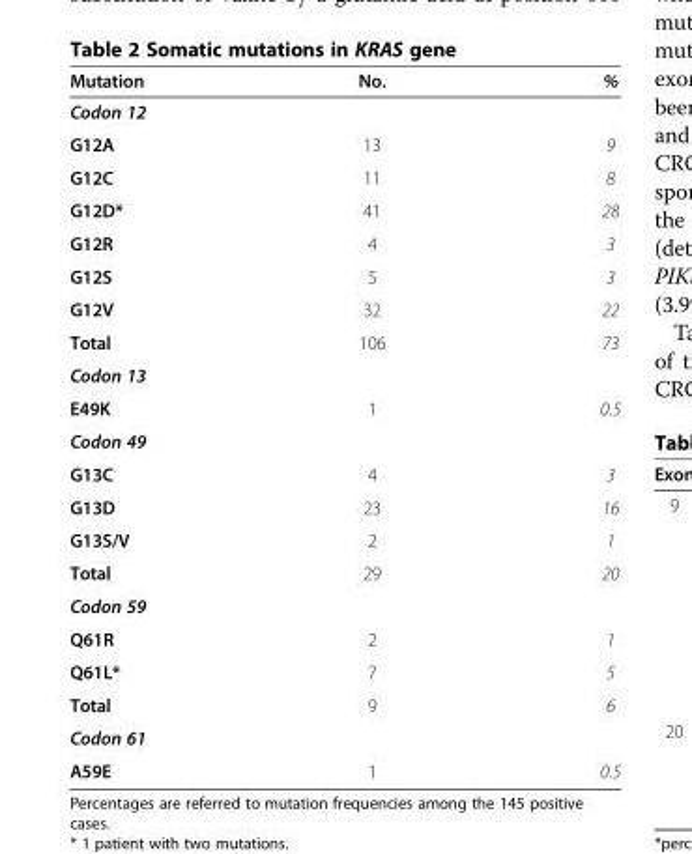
<table><thead><tr><td>Mutation</td><td>No.</td><td>%</td></tr></thead><tbody><tr><td colspan="3">Codon 12</td></tr><tr><td>G12A</td><td>13</td><td>9</td></tr><tr><td>G12C</td><td>11</td><td>8</td></tr><tr><td>G12D*</td><td>41</td><td>28</td></tr><tr><td>G12R</td><td>4</td><td>3</td></tr><tr><td>G12S</td><td>5</td><td>3</td></tr><tr><td>G12V</td><td>32</td><td>22</td></tr><tr><td>Total</td><td>106</td><td>73</td></tr><tr><td colspan="3">Codon 13</td></tr><tr><td>E49K</td><td>1</td><td>0.5</td></tr><tr><td colspan="3">Codon 49</td></tr><tr><td>G13C</td><td>4</td><td>3</td></tr><tr><td>G13D</td><td>23</td><td>16</td></tr><tr><td>G13S/V</td><td>2</td><td>1</td></tr><tr><td>Total</td><td>29</td><td>20</td></tr><tr><td colspan="3">Codon 59</td></tr><tr><td>Q61R</td><td>2</td><td>1</td></tr><tr><td>Q61L*</td><td>7</td><td>5</td></tr><tr><td>Total</td><td>9</td><td>6</td></tr><tr><td colspan="3">Codon 61</td></tr><tr><td>A59E</td><td>1</td><td>0.5</td></tr></tbody></table>